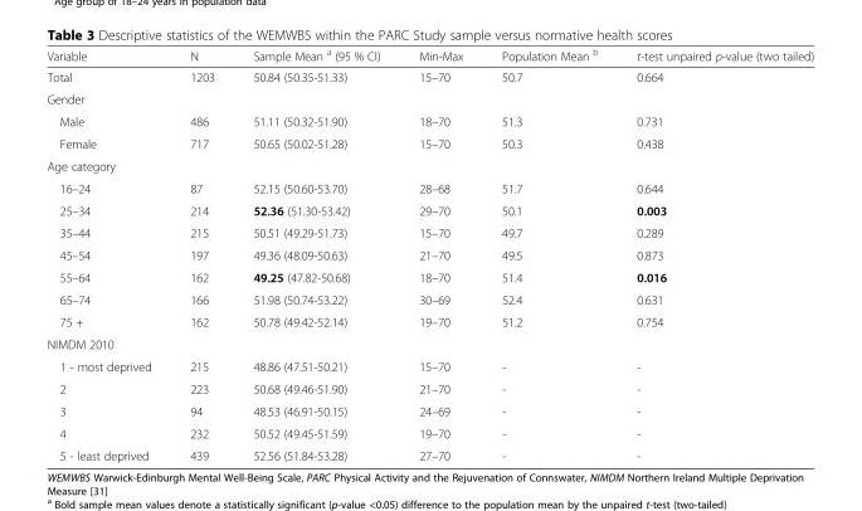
<table><thead><tr><td>Variable</td><td>N</td><td>Sample Mean <sup>a</sup> (95 % CI)</td><td>Min-Max</td><td>Population Mean <sup>b</sup></td><td>t-test unpaired p-value (two tailed)</td></tr></thead><tbody><tr><td>Total</td><td>1203</td><td>50.84 (50.35-51.33)</td><td>15–70</td><td>50.7</td><td>0.664</td></tr><tr><td colspan="6">Gender</td></tr><tr><td>Male</td><td>486</td><td>51.11 (50.32-51.90)</td><td>18–70</td><td>51.3</td><td>0.731</td></tr><tr><td>Female</td><td>717</td><td>50.65 (50.02-51.28)</td><td>15–70</td><td>50.3</td><td>0.438</td></tr><tr><td colspan="6">Age category</td></tr><tr><td>16–24</td><td>87</td><td>52.15 (50.60-53.70)</td><td>28–68</td><td>51.7</td><td>0.644</td></tr><tr><td>25–34</td><td>214</td><td>52.36 (51.30-53.42)</td><td>29–70</td><td>50.1</td><td>0.003</td></tr><tr><td>35–44</td><td>215</td><td>50.51 (49.29-51.73)</td><td>15–70</td><td>49.7</td><td>0.289</td></tr><tr><td>45–54</td><td>197</td><td>49.36 (48.09-50.63)</td><td>21–70</td><td>49.5</td><td>0.873</td></tr><tr><td>55–64</td><td>162</td><td>49.25 (47.82-50.68)</td><td>18–70</td><td>51.4</td><td>0.016</td></tr><tr><td>65–74</td><td>166</td><td>51.98 (50.74-53.22)</td><td>30–69</td><td>52.4</td><td>0.631</td></tr><tr><td>75 +</td><td>162</td><td>50.78 (49.42-52.14)</td><td>19–70</td><td>51.2</td><td>0.754</td></tr><tr><td colspan="6">NIMDM 2010</td></tr><tr><td>1 - most deprived</td><td>215</td><td>48.86 (47.51-50.21)</td><td>15–70</td><td>-</td><td>-</td></tr><tr><td>2</td><td>223</td><td>50.68 (49.46-51.90)</td><td>21–70</td><td>-</td><td>-</td></tr><tr><td>3</td><td>94</td><td>48.53 (46.91-50.15)</td><td>24–69</td><td>-</td><td>-</td></tr><tr><td>4</td><td>232</td><td>50.52 (49.45-51.59)</td><td>19–70</td><td>-</td><td>-</td></tr><tr><td>5 - least deprived</td><td>439</td><td>52.56 (51.84-53.28)</td><td>27–70</td><td>-</td><td>-</td></tr></tbody></table>